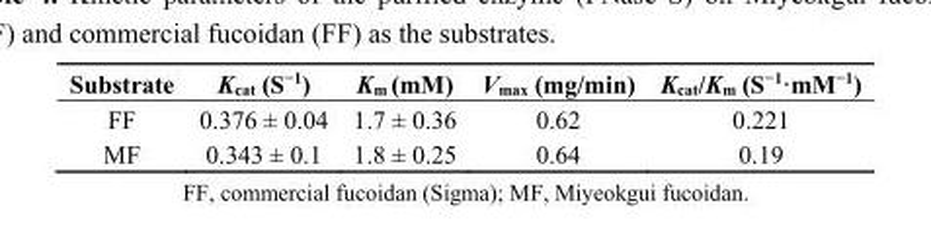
<table><thead><tr><td>Substrate</td><td>K<sub>cat</sub> (S<sup>−1</sup>)</td><td>K<sub>m</sub> (mM)</td><td>V<sub>max</sub> (mg/min)</td><td>K<sub>cat</sub>/K<sub>m</sub> (S<sup>−1</sup>·mM<sup>−1</sup>)</td></tr></thead><tbody><tr><td>FF</td><td>0.376 ± 0.04</td><td>1.7 ± 0.36</td><td>0.62</td><td>0.221</td></tr><tr><td>MF</td><td>0.343 ± 0.1</td><td>1.8 ± 0.25</td><td>0.64</td><td>0.19</td></tr></tbody></table>